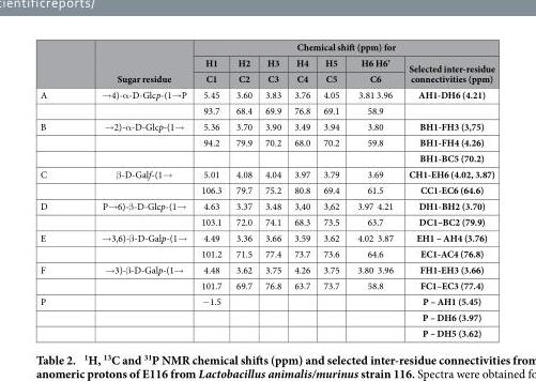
<table><thead><tr><td rowspan="3"></td><td rowspan="3">Sugar residue</td><td colspan="7">Chemical shift (ppm) for</td></tr><tr><td rowspan="2">H1 C1</td><td rowspan="2">H2 C2</td><td rowspan="2">H3 C3</td><td rowspan="2">H4 C4</td><td rowspan="2">H5 C5</td><td rowspan="2">H6 H6’ C6</td><td rowspan="2">Selected inter-residue connectivities (ppm)</td></tr><tr></tr></thead><tbody><tr><td rowspan="2">A</td><td>→ 4)-α -D-Glcp-(1→ P</td><td>5.45</td><td>3.60</td><td>3.83</td><td>3.76</td><td>4.05</td><td>3.81 3.96</td><td>AH1-DH6 (4.21)</td></tr><tr><td></td><td>93.7</td><td>68.4</td><td>69.9</td><td>76.8</td><td>69.1</td><td>58.9</td><td></td></tr><tr><td rowspan="3">B</td><td>→ 2)-α -D-Glcp-(1→</td><td>5.36</td><td>3.70</td><td>3.90</td><td>3.49</td><td>3.94</td><td>3.80</td><td>BH1-FH3 (3,75)</td></tr><tr><td></td><td>94.2</td><td>79.9</td><td>70.2</td><td>68.0</td><td>70.2</td><td>59.8</td><td>BH1-FH4 (4.26)</td></tr><tr><td></td><td></td><td></td><td></td><td></td><td></td><td></td><td>BH1-BC5 (70.2)</td></tr><tr><td rowspan="2">C</td><td>β -D-Galf-(1→</td><td>5.01</td><td>4.08</td><td>4.04</td><td>3.97</td><td>3.79</td><td>3.69</td><td>CH1-EH6 (4.02, 3.87)</td></tr><tr><td></td><td>106.3</td><td>79.7</td><td>75.2</td><td>80.8</td><td>69.4</td><td>61.5</td><td>CC1-EC6 (64.6)</td></tr><tr><td rowspan="2">D</td><td>P→ 6)-β -D-Glcp-(1→</td><td>4.63</td><td>3.37</td><td>3.48</td><td>3,40</td><td>3,62</td><td>3.97 4.21</td><td>DH1-BH2 (3.70)</td></tr><tr><td></td><td>103.1</td><td>72.0</td><td>74.1</td><td>68.3</td><td>73.5</td><td>63.7</td><td>DC1–BC2 (79.9)</td></tr><tr><td rowspan="2">E</td><td>→ 3,6)-β -D-Galp-(1→</td><td>4.49</td><td>3.36</td><td>3.66</td><td>3.59</td><td>3.62</td><td>4.02 3.87</td><td>EH1 – AH4 (3.76)</td></tr><tr><td></td><td>101.2</td><td>71.5</td><td>77.4</td><td>73.7</td><td>73.6</td><td>64.6</td><td>EC1-AC4 (76.8)</td></tr><tr><td rowspan="2">F</td><td>→ 3)-β -D-Galp-(1→</td><td>4.48</td><td>3.62</td><td>3.75</td><td>4.26</td><td>3.75</td><td>3.80 3.96</td><td>FH1-EH3 (3.66)</td></tr><tr><td></td><td>101.7</td><td>69.7</td><td>76.8</td><td>63.7</td><td>73.7</td><td>58.8</td><td>FC1–EC3 (77.4)</td></tr><tr><td rowspan="3">P</td><td></td><td>− 1.5</td><td></td><td></td><td></td><td></td><td></td><td>P – AH1 (5.45)</td></tr><tr><td></td><td></td><td></td><td></td><td></td><td></td><td></td><td>P – DH6 (3.97)</td></tr><tr><td></td><td></td><td></td><td></td><td></td><td></td><td></td><td>P – DH5 (3.62)</td></tr></tbody></table>